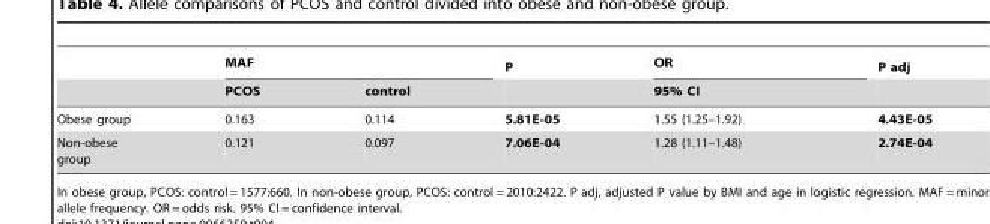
<table><thead><tr><td rowspan="2"></td><td colspan="2">MAF</td><td rowspan="2">P</td><td rowspan="2">OR 95% CI</td><td rowspan="2">P adj</td></tr><tr><td>PCOS</td><td>control</td></tr></thead><tbody><tr><td>Obese group</td><td>0.163</td><td>0.114</td><td>5.81E-05</td><td>1.55 (1.25–1.92)</td><td>4.43E-05</td></tr><tr><td>Non-obese group</td><td>0.121</td><td>0.097</td><td>7.06E-04</td><td>1.28 (1.11–1.48)</td><td>2.74E-04</td></tr></tbody></table>